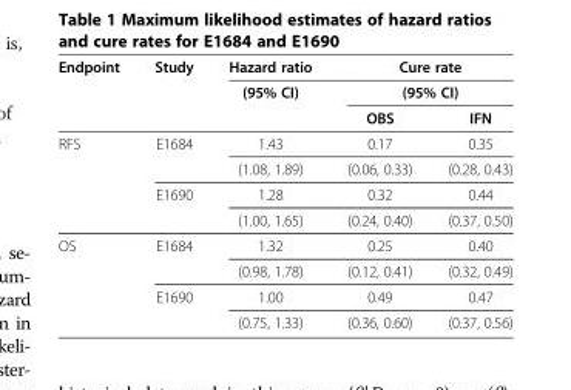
<table><thead><tr><td rowspan="3">Endpoint</td><td rowspan="3">Study</td><td rowspan="3">Hazard ratio (95% CI)</td><td rowspan="2" colspan="2">Cure rate (95% CI)</td></tr><tr></tr><tr><td>OBS</td><td>IFN</td></tr></thead><tbody><tr><td rowspan="4">RFS</td><td rowspan="2">E1684</td><td>1.43</td><td>0.17</td><td>0.35</td></tr><tr><td>(1.08, 1.89)</td><td>(0.06, 0.33)</td><td>(0.28, 0.43)</td></tr><tr><td rowspan="2">E1690</td><td>1.28</td><td>0.32</td><td>0.44</td></tr><tr><td>(1.00, 1.65)</td><td>(0.24, 0.40)</td><td>(0.37, 0.50)</td></tr><tr><td rowspan="4">OS</td><td rowspan="2">E1684</td><td>1.32</td><td>0.25</td><td>0.40</td></tr><tr><td>(0.98, 1.78)</td><td>(0.12, 0.41)</td><td>(0.32, 0.49)</td></tr><tr><td rowspan="2">E1690</td><td>1.00</td><td>0.49</td><td>0.47</td></tr><tr><td>(0.75, 1.33)</td><td>(0.36, 0.60)</td><td>(0.37, 0.56)</td></tr></tbody></table>